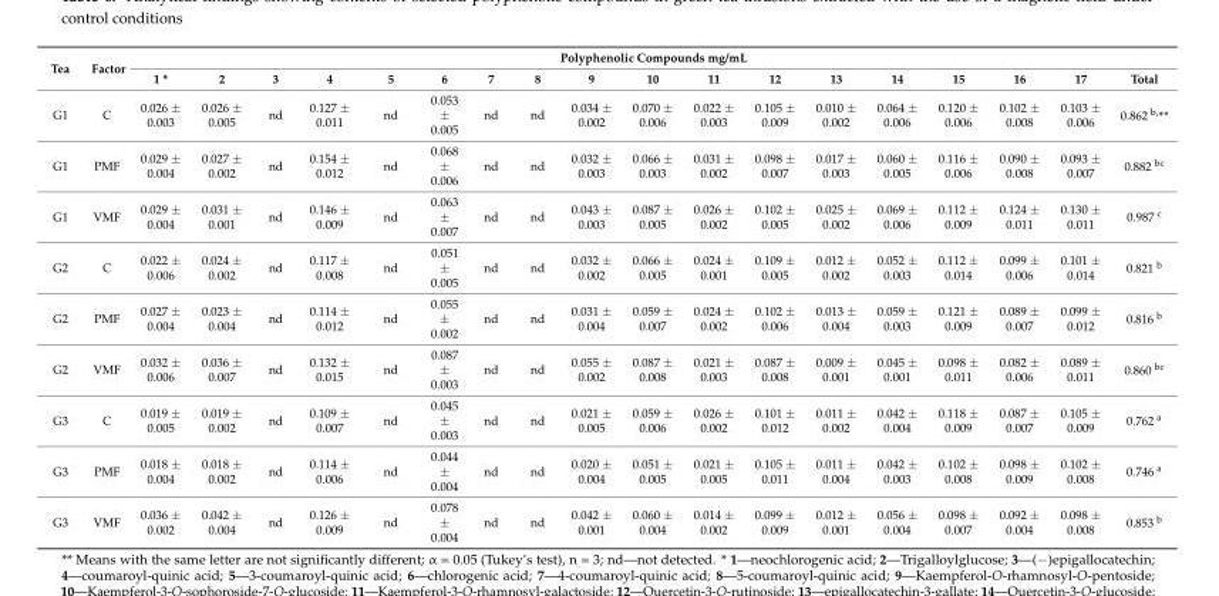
<table><thead><tr><td rowspan="2">Tea</td><td rowspan="2">Factor</td><td colspan="18">Polyphenolic Compounds mg/mL</td></tr><tr><td>1 *</td><td>2</td><td>3</td><td>4</td><td>5</td><td>6</td><td>7</td><td>8</td><td>9</td><td>10</td><td>11</td><td>12</td><td>13</td><td>14</td><td>15</td><td>16</td><td>17</td><td>Total</td></tr></thead><tbody><tr><td>G1</td><td>C</td><td>0.026 ± 0.003</td><td>0.026 ± 0.005</td><td>nd</td><td>0.127 ± 0.011</td><td>nd</td><td>0.053 ± 0.005</td><td>nd</td><td>nd</td><td>0.034 ± 0.002</td><td>0.070 ± 0.006</td><td>0.022 ± 0.003</td><td>0.105 ± 0.009</td><td>0.010 ± 0.002</td><td>0.064 ± 0.006</td><td>0.120 ± 0.006</td><td>0.102 ± 0.008</td><td>0.103 ± 0.006</td><td>0.862 <sup>b,</sup>**</td></tr><tr><td>G1</td><td>PMF</td><td>0.029 ± 0.004</td><td>0.027 ± 0.002</td><td>nd</td><td>0.154 ± 0.012</td><td>nd</td><td>0.068 ± 0.006</td><td>nd</td><td>nd</td><td>0.032 ± 0.003</td><td>0.066 ± 0.003</td><td>0.031 ± 0.002</td><td>0.098 ± 0.007</td><td>0.017 ± 0.003</td><td>0.060 ± 0.005</td><td>0.116 ± 0.006</td><td>0.090 ± 0.008</td><td>0.093 ± 0.007</td><td>0.882 <sup>bc</sup></td></tr><tr><td>G1</td><td>VMF</td><td>0.029 ± 0.004</td><td>0.031 ± 0.001</td><td>nd</td><td>0.146 ± 0.009</td><td>nd</td><td>0.063 ± 0.007</td><td>nd</td><td>nd</td><td>0.043 ± 0.003</td><td>0.087 ± 0.005</td><td>0.026 ± 0.002</td><td>0.102 ± 0.005</td><td>0.025 ± 0.002</td><td>0.069 ± 0.006</td><td>0.112 ± 0.009</td><td>0.124 ± 0.011</td><td>0.130 ± 0.011</td><td>0.987 <sup>c</sup></td></tr><tr><td>G2</td><td>C</td><td>0.022 ± 0.006</td><td>0.024 ± 0.002</td><td>nd</td><td>0.117 ± 0.008</td><td>nd</td><td>0.051 ± 0.005</td><td>nd</td><td>nd</td><td>0.032 ± 0.002</td><td>0.066 ± 0.005</td><td>0.024 ± 0.001</td><td>0.109 ± 0.005</td><td>0.012 ± 0.002</td><td>0.052 ± 0.003</td><td>0.112 ± 0.014</td><td>0.099 ± 0.006</td><td>0.101 ± 0.014</td><td>0.821 <sup>b</sup></td></tr><tr><td>G2</td><td>PMF</td><td>0.027 ± 0.004</td><td>0.023 ± 0.004</td><td>nd</td><td>0.114 ± 0.012</td><td>nd</td><td>0.055 ± 0.002</td><td>nd</td><td>nd</td><td>0.031 ± 0.004</td><td>0.059 ± 0.007</td><td>0.024 ± 0.002</td><td>0.102 ± 0.006</td><td>0.013 ± 0.004</td><td>0.059 ± 0.003</td><td>0.121 ± 0.009</td><td>0.089 ± 0.007</td><td>0.099 ± 0.012</td><td>0.816 <sup>b</sup></td></tr><tr><td>G2</td><td>VMF</td><td>0.032 ± 0.006</td><td>0.036 ± 0.007</td><td>nd</td><td>0.132 ± 0.015</td><td>nd</td><td>0.087 ± 0.003</td><td>nd</td><td>nd</td><td>0.055 ± 0.002</td><td>0.087 ± 0.008</td><td>0.021 ± 0.003</td><td>0.087 ± 0.008</td><td>0.009 ± 0.001</td><td>0.045 ± 0.001</td><td>0.098 ± 0.011</td><td>0.082 ± 0.006</td><td>0.089 ± 0.011</td><td>0.860 <sup>bc</sup></td></tr><tr><td>G3</td><td>C</td><td>0.019 ± 0.005</td><td>0.019 ± 0.002</td><td>nd</td><td>0.109 ± 0.007</td><td>nd</td><td>0.045 ± 0.003</td><td>nd</td><td>nd</td><td>0.021 ± 0.005</td><td>0.059 ± 0.006</td><td>0.026 ± 0.002</td><td>0.101 ± 0.012</td><td>0.011 ± 0.002</td><td>0.042 ± 0.004</td><td>0.118 ± 0.009</td><td>0.087 ± 0.007</td><td>0.105 ± 0.009</td><td>0.762 <sup>a</sup></td></tr><tr><td>G3</td><td>PMF</td><td>0.018 ± 0.004</td><td>0.018 ± 0.002</td><td>nd</td><td>0.114 ± 0.006</td><td>nd</td><td>0.044 ± 0.004</td><td>nd</td><td>nd</td><td>0.020 ± 0.004</td><td>0.051 ± 0.005</td><td>0.021 ± 0.005</td><td>0.105 ± 0.011</td><td>0.011 ± 0.004</td><td>0.042 ± 0.003</td><td>0.102 ± 0.008</td><td>0.098 ± 0.009</td><td>0.102 ± 0.008</td><td>0.746 <sup>a</sup></td></tr><tr><td>G3</td><td>VMF</td><td>0.036 ± 0.002</td><td>0.042 ± 0.004</td><td>nd</td><td>0.126 ± 0.009</td><td>nd</td><td>0.078 ± 0.004</td><td>nd</td><td>nd</td><td>0.042 ± 0.001</td><td>0.060 ± 0.004</td><td>0.014 ± 0.002</td><td>0.099 ± 0.009</td><td>0.012 ± 0.001</td><td>0.056 ± 0.004</td><td>0.098 ± 0.007</td><td>0.092 ± 0.004</td><td>0.098 ± 0.008</td><td>0.853 <sup>b</sup></td></tr></tbody></table>